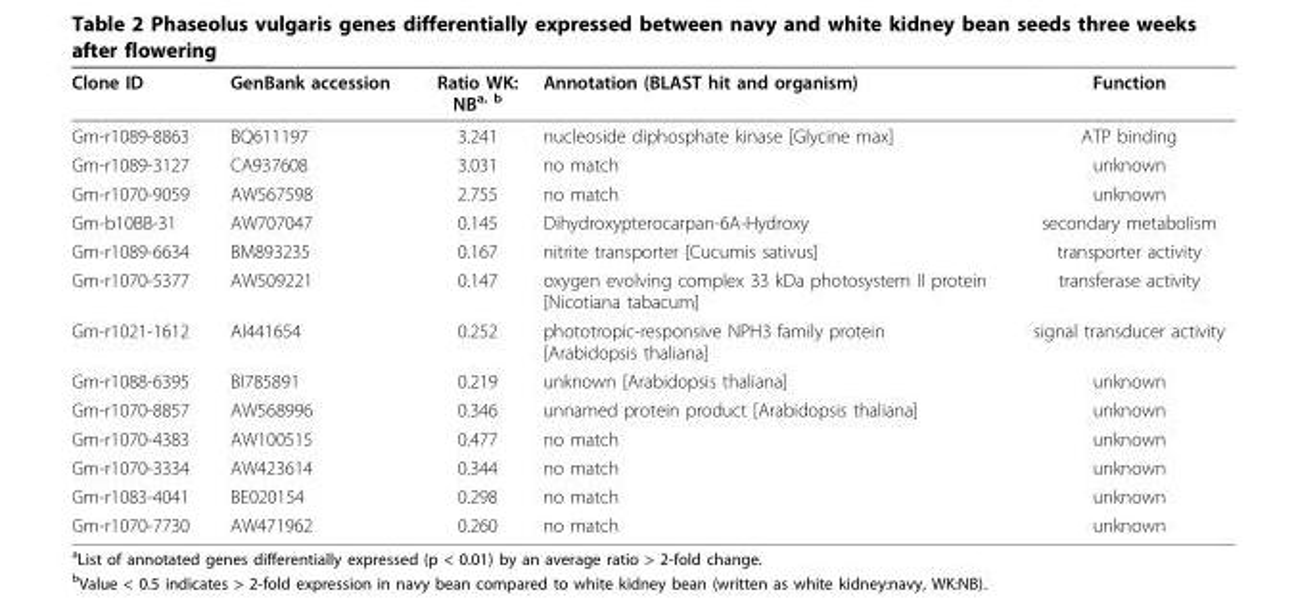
<table><thead><tr><td>Clone ID</td><td>GenBank accession</td><td>Ratio WK: NB<sup>a, b</sup></td><td>Annotation (BLAST hit and organism)</td><td>Function</td></tr></thead><tbody><tr><td>Gm-r1089-8863</td><td>BQ611197</td><td>3.241</td><td>nucleoside diphosphate kinase [Glycine max]</td><td>ATP binding</td></tr><tr><td>Gm-r1089-3127</td><td>CA937608</td><td>3.031</td><td>no match</td><td>unknown</td></tr><tr><td>Gm-r1070-9059</td><td>AW567598</td><td>2.755</td><td>no match</td><td>unknown</td></tr><tr><td>Gm-b10BB-31</td><td>AW707047</td><td>0.145</td><td>Dihydroxypterocarpan-6A-Hydroxy</td><td>secondary metabolism</td></tr><tr><td>Gm-r1089-6634</td><td>BM893235</td><td>0.167</td><td>nitrite transporter [Cucumis sativus]</td><td>transporter activity</td></tr><tr><td>Gm-r1070-5377</td><td>AW509221</td><td>0.147</td><td>oxygen evolving complex 33 kDa photosystem II protein [Nicotiana tabacum]</td><td>transferase activity</td></tr><tr><td>Gm-r1021-1612</td><td>AI441654</td><td>0.252</td><td>phototropic-responsive NPH3 family protein [Arabidopsis thaliana]</td><td>signal transducer activity</td></tr><tr><td>Gm-r1088-6395</td><td>BI785891</td><td>0.219</td><td>unknown [Arabidopsis thaliana]</td><td>unknown</td></tr><tr><td>Gm-r1070-8857</td><td>AW568996</td><td>0.346</td><td>unnamed protein product [Arabidopsis thaliana]</td><td>unknown</td></tr><tr><td>Gm-r1070-4383</td><td>AW100515</td><td>0.477</td><td>no match</td><td>unknown</td></tr><tr><td>Gm-r1070-3334</td><td>AW423614</td><td>0.344</td><td>no match</td><td>unknown</td></tr><tr><td>Gm-r1083-4041</td><td>BE020154</td><td>0.298</td><td>no match</td><td>unknown</td></tr><tr><td>Gm-r1070-7730</td><td>AW471962</td><td>0.260</td><td>no match</td><td>unknown</td></tr></tbody></table>